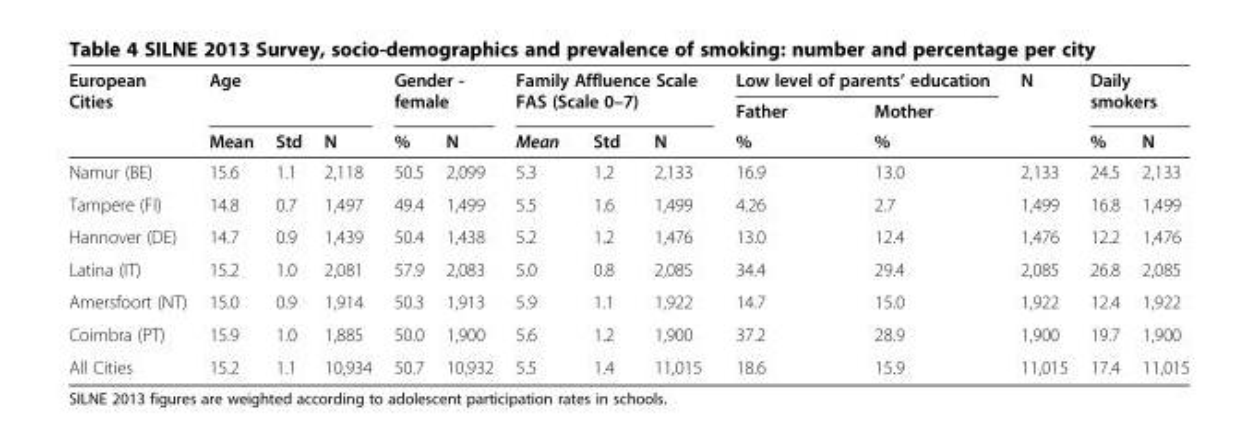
<table><thead><tr><td rowspan="3">European Cities</td><td rowspan="2" colspan="3">Age</td><td rowspan="2" colspan="2">Gender - female</td><td rowspan="2" colspan="3">Family Affluence Scale FAS (Scale 0–7)</td><td colspan="2">Low level of parents’ education</td><td rowspan="3">N</td><td rowspan="2" colspan="2">Daily smokers</td></tr><tr><td rowspan="2">Father %</td><td rowspan="2">Mother %</td></tr><tr><td>Mean</td><td>Std</td><td>N</td><td>%</td><td>N</td><td>Mean</td><td>Std</td><td>N</td><td>%</td><td>N</td></tr></thead><tbody><tr><td>Namur (BE)</td><td>15.6</td><td>1.1</td><td>2,118</td><td>50.5</td><td>2,099</td><td>5.3</td><td>1.2</td><td>2,133</td><td>16.9</td><td>13.0</td><td>2,133</td><td>24.5</td><td>2,133</td></tr><tr><td>Tampere (FI)</td><td>14.8</td><td>0.7</td><td>1,497</td><td>49.4</td><td>1,499</td><td>5.5</td><td>1.6</td><td>1,499</td><td>4.26</td><td>2.7</td><td>1,499</td><td>16.8</td><td>1,499</td></tr><tr><td>Hannover (DE)</td><td>14.7</td><td>0.9</td><td>1,439</td><td>50.4</td><td>1,438</td><td>5.2</td><td>1.2</td><td>1,476</td><td>13.0</td><td>12.4</td><td>1,476</td><td>12.2</td><td>1,476</td></tr><tr><td>Latina (IT)</td><td>15.2</td><td>1.0</td><td>2,081</td><td>57.9</td><td>2,083</td><td>5.0</td><td>0.8</td><td>2,085</td><td>34.4</td><td>29.4</td><td>2,085</td><td>26.8</td><td>2,085</td></tr><tr><td>Amersfoort (NT)</td><td>15.0</td><td>0.9</td><td>1,914</td><td>50.3</td><td>1,913</td><td>5.9</td><td>1.1</td><td>1,922</td><td>14.7</td><td>15.0</td><td>1,922</td><td>12.4</td><td>1,922</td></tr><tr><td>Coimbra (PT)</td><td>15.9</td><td>1.0</td><td>1,885</td><td>50.0</td><td>1,900</td><td>5.6</td><td>1.2</td><td>1,900</td><td>37.2</td><td>28.9</td><td>1,900</td><td>19.7</td><td>1,900</td></tr><tr><td>All Cities</td><td>15.2</td><td>1.1</td><td>10,934</td><td>50.7</td><td>10,932</td><td>5.5</td><td>1.4</td><td>11,015</td><td>18.6</td><td>15.9</td><td>11,015</td><td>17.4</td><td>11,015</td></tr></tbody></table>